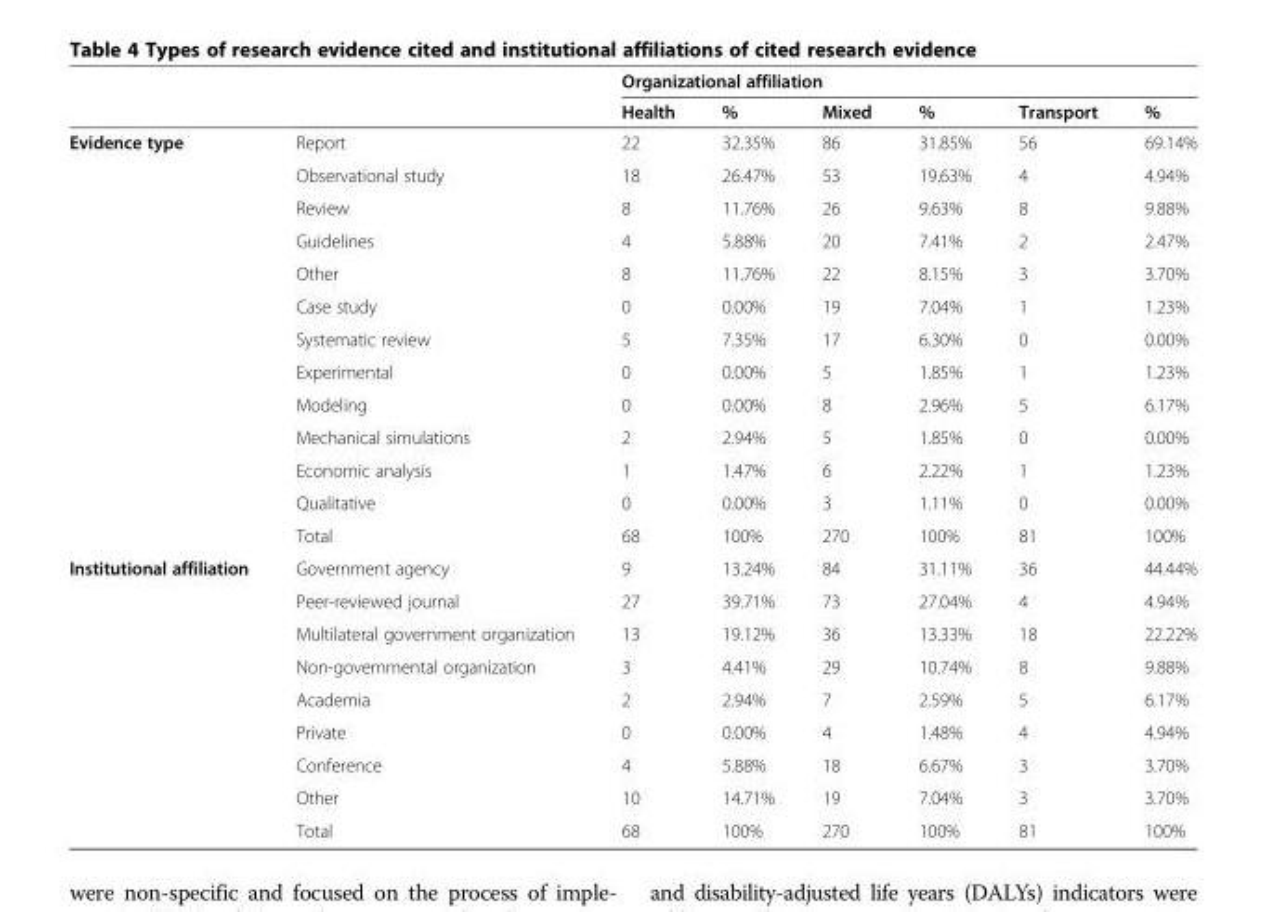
<table><thead><tr><td rowspan="2"></td><td rowspan="2"></td><td colspan="6">Organizational affiliation</td></tr><tr><td>Health</td><td>%</td><td>Mixed</td><td>%</td><td>Transport</td><td>%</td></tr></thead><tbody><tr><td rowspan="13">Evidence type</td><td>Report</td><td>22</td><td>32.35%</td><td>86</td><td>31.85%</td><td>56</td><td>69.14%</td></tr><tr><td>Observational study</td><td>18</td><td>26.47%</td><td>53</td><td>19.63%</td><td>4</td><td>4.94%</td></tr><tr><td>Review</td><td>8</td><td>11.76%</td><td>26</td><td>9.63%</td><td>8</td><td>9.88%</td></tr><tr><td>Guidelines</td><td>4</td><td>5.88%</td><td>20</td><td>7.41%</td><td>2</td><td>2.47%</td></tr><tr><td>Other</td><td>8</td><td>11.76%</td><td>22</td><td>8.15%</td><td>3</td><td>3.70%</td></tr><tr><td>Case study</td><td>0</td><td>0.00%</td><td>19</td><td>7.04%</td><td>1</td><td>1.23%</td></tr><tr><td>Systematic review</td><td>5</td><td>7.35%</td><td>17</td><td>6.30%</td><td>0</td><td>0.00%</td></tr><tr><td>Experimental</td><td>0</td><td>0.00%</td><td>5</td><td>1.85%</td><td>1</td><td>1.23%</td></tr><tr><td>Modeling</td><td>0</td><td>0.00%</td><td>8</td><td>2.96%</td><td>5</td><td>6.17%</td></tr><tr><td>Mechanical simulations</td><td>2</td><td>2.94%</td><td>5</td><td>1.85%</td><td>0</td><td>0.00%</td></tr><tr><td>Economic analysis</td><td>1</td><td>1.47%</td><td>6</td><td>2.22%</td><td>1</td><td>1.23%</td></tr><tr><td>Qualitative</td><td>0</td><td>0.00%</td><td>3</td><td>1.11%</td><td>0</td><td>0.00%</td></tr><tr><td>Total</td><td>68</td><td>100%</td><td>270</td><td>100%</td><td>81</td><td>100%</td></tr><tr><td rowspan="9">Institutional affiliation</td><td>Government agency</td><td>9</td><td>13.24%</td><td>84</td><td>31.11%</td><td>36</td><td>44.44%</td></tr><tr><td>Peer-reviewed journal</td><td>27</td><td>39.71%</td><td>73</td><td>27.04%</td><td>4</td><td>4.94%</td></tr><tr><td>Multilateral government organization</td><td>13</td><td>19.12%</td><td>36</td><td>13.33%</td><td>18</td><td>22.22%</td></tr><tr><td>Non-governmental organization</td><td>3</td><td>4.41%</td><td>29</td><td>10.74%</td><td>8</td><td>9.88%</td></tr><tr><td>Academia</td><td>2</td><td>2.94%</td><td>7</td><td>2.59%</td><td>5</td><td>6.17%</td></tr><tr><td>Private</td><td>0</td><td>0.00%</td><td>4</td><td>1.48%</td><td>4</td><td>4.94%</td></tr><tr><td>Conference</td><td>4</td><td>5.88%</td><td>18</td><td>6.67%</td><td>3</td><td>3.70%</td></tr><tr><td>Other</td><td>10</td><td>14.71%</td><td>19</td><td>7.04%</td><td>3</td><td>3.70%</td></tr><tr><td>Total</td><td>68</td><td>100%</td><td>270</td><td>100%</td><td>81</td><td>100%</td></tr></tbody></table>